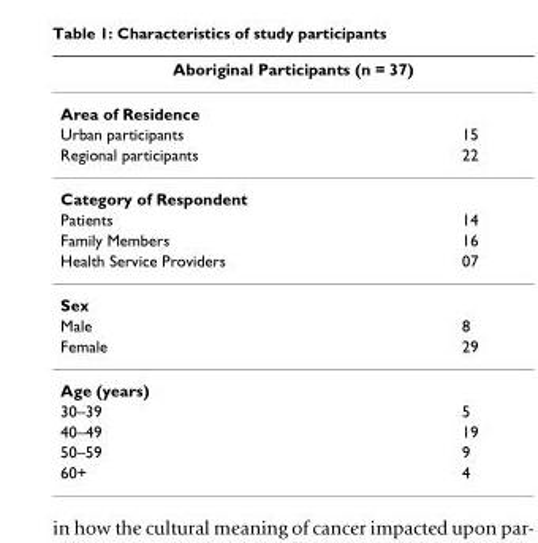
<table><thead><tr><td colspan="2">Aboriginal Participants (n = 37)</td></tr><tr><td>Area of Residence</td><td></td></tr></thead><tbody><tr><td>Urban participants</td><td>15</td></tr><tr><td>Regional participants</td><td>22</td></tr><tr><td colspan="2">Category of Respondent</td></tr><tr><td>Patients</td><td>14</td></tr><tr><td>Family Members</td><td>16</td></tr><tr><td>Health Service Providers</td><td>07</td></tr><tr><td colspan="2">Sex</td></tr><tr><td>Male</td><td>8</td></tr><tr><td>Female</td><td>29</td></tr><tr><td colspan="2">Age (years)</td></tr><tr><td>30–39</td><td>5</td></tr><tr><td>40–49</td><td>19</td></tr><tr><td>50–59</td><td>9</td></tr><tr><td>60+</td><td>4</td></tr></tbody></table>